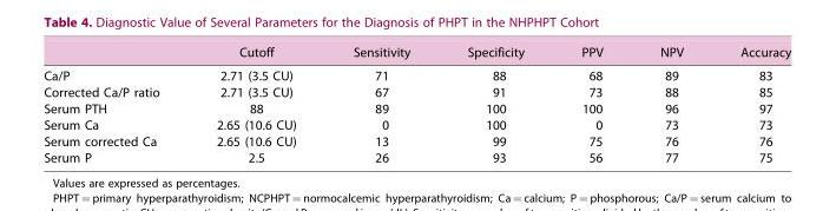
<table><thead><tr><td></td><td>Cutoff</td><td>Sensitivity</td><td>Specificity</td><td>PPV</td><td>NPV</td><td>Accuracy</td></tr></thead><tbody><tr><td>Ca/P</td><td>2.71 (3.5 CU)</td><td>71</td><td>88</td><td>68</td><td>89</td><td>83</td></tr><tr><td>Corrected Ca/P ratio</td><td>2.71 (3.5 CU)</td><td>67</td><td>91</td><td>73</td><td>88</td><td>85</td></tr><tr><td>Serum PTH</td><td>88</td><td>89</td><td>100</td><td>100</td><td>96</td><td>97</td></tr><tr><td>Serum Ca</td><td>2.65 (10.6 CU)</td><td>0</td><td>100</td><td>0</td><td>73</td><td>73</td></tr><tr><td>Serum corrected Ca</td><td>2.65 (10.6 CU)</td><td>13</td><td>99</td><td>75</td><td>76</td><td>76</td></tr><tr><td>Serum P</td><td>2.5</td><td>26</td><td>93</td><td>56</td><td>77</td><td>75</td></tr></tbody></table>